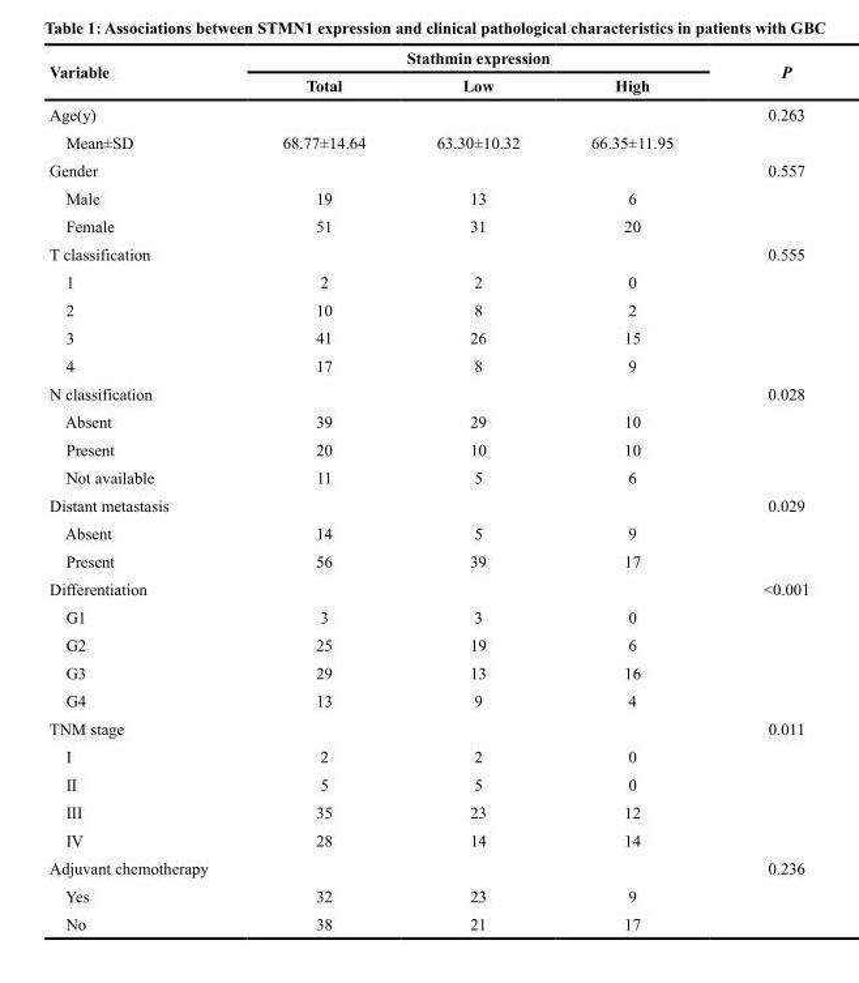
<table><thead><tr><td rowspan="2">Variable</td><td colspan="3">Stathmin expression</td><td rowspan="2">P</td></tr><tr><td>Total</td><td>Low</td><td>High</td></tr></thead><tbody><tr><td>Age(y)</td><td></td><td></td><td></td><td>0.263</td></tr><tr><td>Mean±SD</td><td>68.77±14.64</td><td>63.30±10.32</td><td>66.35±11.95</td><td></td></tr><tr><td>Gender</td><td></td><td></td><td></td><td>0.557</td></tr><tr><td>Male</td><td>19</td><td>13</td><td>6</td><td></td></tr><tr><td>Female</td><td>51</td><td>31</td><td>20</td><td></td></tr><tr><td>T classification</td><td></td><td></td><td></td><td>0.555</td></tr><tr><td>1</td><td>2</td><td>2</td><td>0</td><td></td></tr><tr><td>2</td><td>10</td><td>8</td><td>2</td><td></td></tr><tr><td>3</td><td>41</td><td>26</td><td>15</td><td></td></tr><tr><td>4</td><td>17</td><td>8</td><td>9</td><td></td></tr><tr><td>N classification</td><td></td><td></td><td></td><td>0.028</td></tr><tr><td>Absent</td><td>39</td><td>29</td><td>10</td><td></td></tr><tr><td>Present</td><td>20</td><td>10</td><td>10</td><td></td></tr><tr><td>Not available</td><td>11</td><td>5</td><td>6</td><td></td></tr><tr><td>Distant metastasis</td><td></td><td></td><td></td><td>0.029</td></tr><tr><td>Absent</td><td>14</td><td>5</td><td>9</td><td></td></tr><tr><td>Present</td><td>56</td><td>39</td><td>17</td><td></td></tr><tr><td>Differentiation</td><td></td><td></td><td></td><td>&lt;0.001</td></tr><tr><td>G1</td><td>3</td><td>3</td><td>0</td><td></td></tr><tr><td>G2</td><td>25</td><td>19</td><td>6</td><td></td></tr><tr><td>G3</td><td>29</td><td>13</td><td>16</td><td></td></tr><tr><td>G4</td><td>13</td><td>9</td><td>4</td><td></td></tr><tr><td>TNM stage</td><td></td><td></td><td></td><td>0.011</td></tr><tr><td>I</td><td>2</td><td>2</td><td>0</td><td></td></tr><tr><td>II</td><td>5</td><td>5</td><td>0</td><td></td></tr><tr><td>III</td><td>35</td><td>23</td><td>12</td><td></td></tr><tr><td>IV</td><td>28</td><td>14</td><td>14</td><td></td></tr><tr><td>Adjuvant chemotherapy</td><td></td><td></td><td></td><td>0.236</td></tr><tr><td>Yes</td><td>32</td><td>23</td><td>9</td><td></td></tr><tr><td>No</td><td>38</td><td>21</td><td>17</td><td></td></tr></tbody></table>